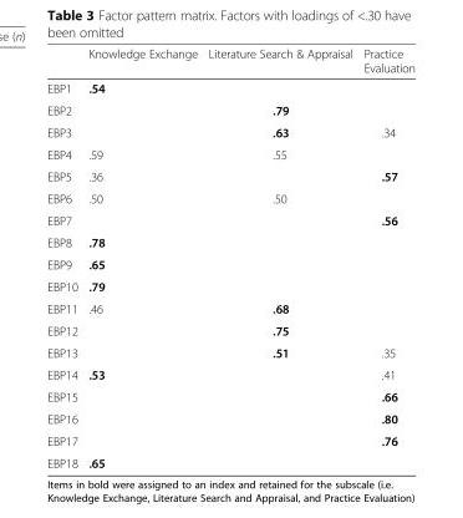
<table><thead><tr><td></td><td>Knowledge Exchange</td><td>Literature Search &amp; Appraisal</td><td>Practice Evaluation</td></tr></thead><tbody><tr><td>EBP1</td><td>.54</td><td></td><td></td></tr><tr><td>EBP2</td><td></td><td>.79</td><td></td></tr><tr><td>EBP3</td><td></td><td>.63</td><td>.34</td></tr><tr><td>EBP4</td><td>.59</td><td>.55</td><td></td></tr><tr><td>EBP5</td><td>.36</td><td></td><td>.57</td></tr><tr><td>EBP6</td><td>.50</td><td>.50</td><td></td></tr><tr><td>EBP7</td><td></td><td></td><td>.56</td></tr><tr><td>EBP8</td><td>.78</td><td></td><td></td></tr><tr><td>EBP9</td><td>.65</td><td></td><td></td></tr><tr><td>EBP10</td><td>.79</td><td></td><td></td></tr><tr><td>EBP11</td><td>.46</td><td>.68</td><td></td></tr><tr><td>EBP12</td><td></td><td>.75</td><td></td></tr><tr><td>EBP13</td><td></td><td>.51</td><td>.35</td></tr><tr><td>EBP14</td><td>.53</td><td></td><td>.41</td></tr><tr><td>EBP15</td><td></td><td></td><td>.66</td></tr><tr><td>EBP16</td><td></td><td></td><td>.80</td></tr><tr><td>EBP17</td><td></td><td></td><td>.76</td></tr><tr><td>EBP18</td><td>.65</td><td></td><td></td></tr></tbody></table>